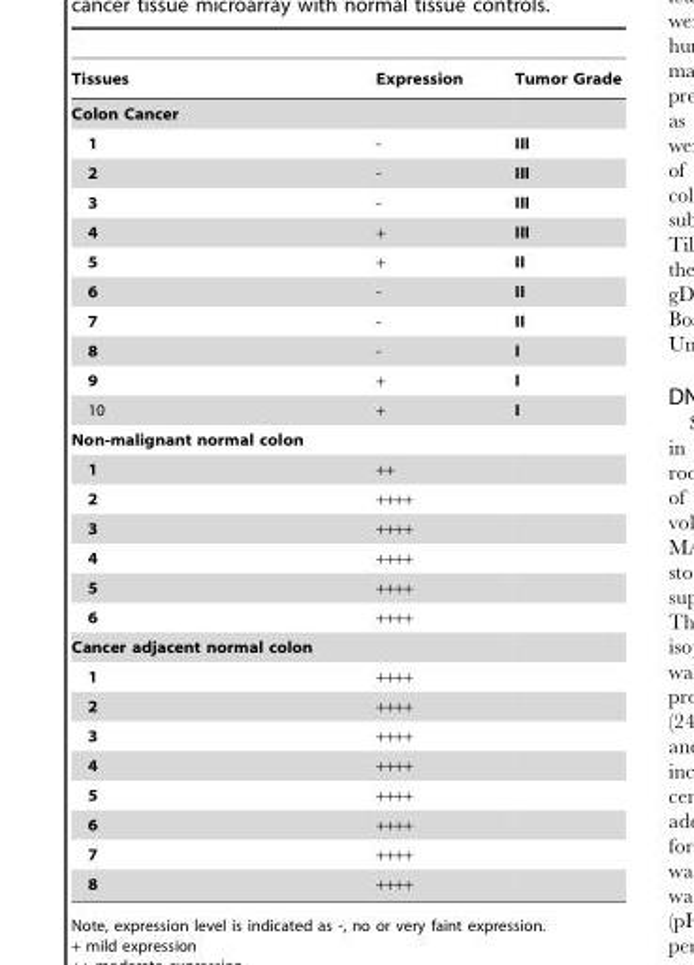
<table><thead><tr><td>Tissues</td><td>Expression</td><td>Tumor Grade</td></tr></thead><tbody><tr><td colspan="3">Colon Cancer</td></tr><tr><td>1</td><td>-</td><td>III</td></tr><tr><td>2</td><td>-</td><td>III</td></tr><tr><td>3</td><td>-</td><td>III</td></tr><tr><td>4</td><td>+</td><td>III</td></tr><tr><td>5</td><td>+</td><td>II</td></tr><tr><td>6</td><td>-</td><td>II</td></tr><tr><td>7</td><td>-</td><td>II</td></tr><tr><td>8</td><td>-</td><td>I</td></tr><tr><td>9</td><td>+</td><td>I</td></tr><tr><td>10</td><td>+</td><td>I</td></tr><tr><td colspan="3">Non-malignant normal colon</td></tr><tr><td>1</td><td>++</td><td></td></tr><tr><td>2</td><td>++++</td><td></td></tr><tr><td>3</td><td>++++</td><td></td></tr><tr><td>4</td><td>++++</td><td></td></tr><tr><td>5</td><td>++++</td><td></td></tr><tr><td>6</td><td>++++</td><td></td></tr><tr><td colspan="3">Cancer adjacent normal colon</td></tr><tr><td>1</td><td>++++</td><td></td></tr><tr><td>2</td><td>++++</td><td></td></tr><tr><td>3</td><td>++++</td><td></td></tr><tr><td>4</td><td>++++</td><td></td></tr><tr><td>5</td><td>++++</td><td></td></tr><tr><td>6</td><td>++++</td><td></td></tr><tr><td>7</td><td>++++</td><td></td></tr><tr><td>8</td><td>++++</td><td></td></tr></tbody></table>